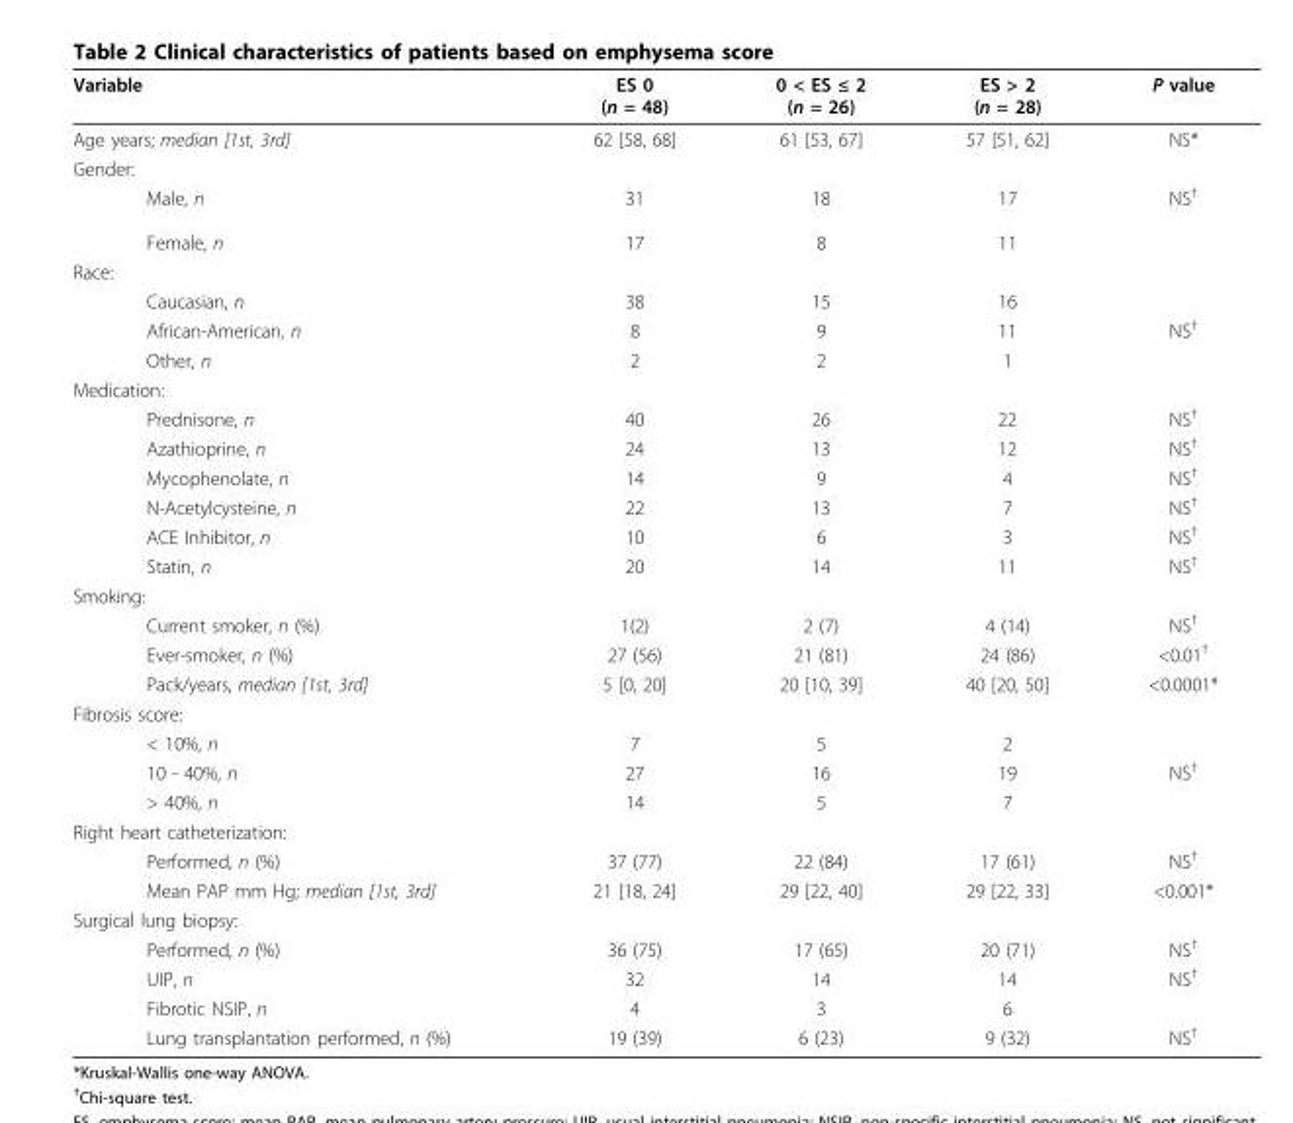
<table><thead><tr><td>Variable</td><td>ES 0 (n = 48)</td><td>0 &lt; ES ≤ 2 (n = 26)</td><td>ES &gt; 2 (n = 28)</td><td>P value</td></tr></thead><tbody><tr><td>Age years; median [1st, 3rd]</td><td>62 [58, 68]</td><td>61 [53, 67]</td><td>57 [51, 62]</td><td>NS*</td></tr><tr><td colspan="5">Gender:</td></tr><tr><td>Male, n Female, n</td><td>31 17</td><td>18 8</td><td>17 11</td><td>NS<sup>†</sup></td></tr><tr><td colspan="5">Race:</td></tr><tr><td>Caucasian, n</td><td>38</td><td>15</td><td>16</td><td></td></tr><tr><td>African-American, n</td><td>8</td><td>9</td><td>11</td><td>NS<sup>†</sup></td></tr><tr><td>Other, n</td><td>2</td><td>2</td><td>1</td><td></td></tr><tr><td colspan="5">Medication:</td></tr><tr><td>Prednisone, n</td><td>40</td><td>26</td><td>22</td><td>NS<sup>†</sup></td></tr><tr><td>Azathioprine, n</td><td>24</td><td>13</td><td>12</td><td>NS<sup>†</sup></td></tr><tr><td>Mycophenolate, n</td><td>14</td><td>9</td><td>4</td><td>NS<sup>†</sup></td></tr><tr><td>N-Acetylcysteine, n</td><td>22</td><td>13</td><td>7</td><td>NS<sup>†</sup></td></tr><tr><td>ACE Inhibitor, n</td><td>10</td><td>6</td><td>3</td><td>NS<sup>†</sup></td></tr><tr><td>Statin, n</td><td>20</td><td>14</td><td>11</td><td>NS<sup>†</sup></td></tr><tr><td colspan="5">Smoking:</td></tr><tr><td>Current smoker, n (%)</td><td>1(2)</td><td>2 (7)</td><td>4 (14)</td><td>NS<sup>†</sup></td></tr><tr><td>Ever-smoker, n (%)</td><td>27 (56)</td><td>21 (81)</td><td>24 (86)</td><td>&lt;0.01<sup>†</sup></td></tr><tr><td>Pack/years, median [1st, 3rd]</td><td>5 [0, 20]</td><td>20 [10, 39]</td><td>40 [20, 50]</td><td>&lt;0.0001*</td></tr><tr><td colspan="5">Fibrosis score:</td></tr><tr><td>&lt; 10%, n</td><td>7</td><td>5</td><td>2</td><td></td></tr><tr><td>10 - 40%, n</td><td>27</td><td>16</td><td>19</td><td>NS<sup>†</sup></td></tr><tr><td>&gt; 40%, n</td><td>14</td><td>5</td><td>7</td><td></td></tr><tr><td colspan="5">Right heart catheterization:</td></tr><tr><td>Performed, n (%)</td><td>37 (77)</td><td>22 (84)</td><td>17 (61)</td><td>NS<sup>†</sup></td></tr><tr><td>Mean PAP mm Hg; median [1st, 3rd]</td><td>21 [18, 24]</td><td>29 [22, 40]</td><td>29 [22, 33]</td><td>&lt;0.001*</td></tr><tr><td colspan="5">Surgical lung biopsy:</td></tr><tr><td>Performed, n (%)</td><td>36 (75)</td><td>17 (65)</td><td>20 (71)</td><td>NS<sup>†</sup></td></tr><tr><td>UIP, n</td><td>32</td><td>14</td><td>14</td><td>NS<sup>†</sup></td></tr><tr><td>Fibrotic NSIP, n</td><td>4</td><td>3</td><td>6</td><td></td></tr><tr><td>Lung transplantation performed, n (%)</td><td>19 (39)</td><td>6 (23)</td><td>9 (32)</td><td>NS<sup>†</sup></td></tr></tbody></table>